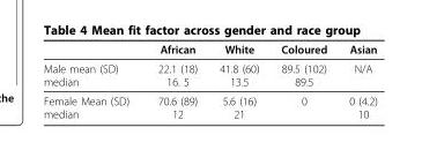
<table><thead><tr><td></td><td>African</td><td>White</td><td>Coloured</td><td>Asian</td></tr></thead><tbody><tr><td>Male mean (SD) median</td><td>22.1 (18) 16. 5</td><td>41.8 (60) 13.5</td><td>89.5 (102) 89.5</td><td>N/A</td></tr><tr><td>Female Mean (SD) median</td><td>70.6 (89) 12</td><td>5.6 (16) 21</td><td>0</td><td>0 (4.2) 10</td></tr></tbody></table>